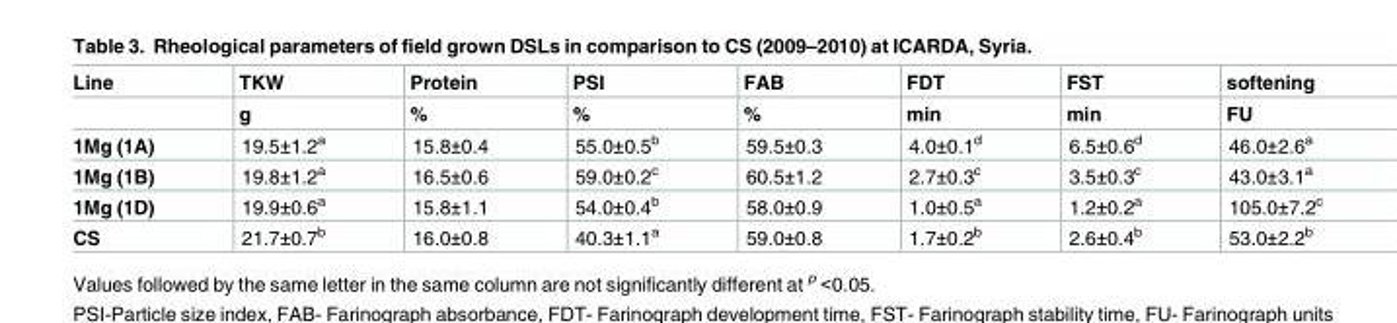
<table><thead><tr><td rowspan="2">Line</td><td rowspan="2">TKW g</td><td rowspan="2">Protein %</td><td rowspan="2">PSI %</td><td rowspan="2">FAB %</td><td rowspan="2">FDT min</td><td rowspan="2">FST min</td><td rowspan="2">softening FU</td></tr><tr></tr></thead><tbody><tr><td>1Mg (1A)</td><td>19.5±1.2<sup>a</sup></td><td>15.8±0.4</td><td>55.0±0.5<sup>b</sup></td><td>59.5±0.3</td><td>4.0±0.1<sup>d</sup></td><td>6.5±0.6<sup>d</sup></td><td>46.0±2.6<sup>a</sup></td></tr><tr><td>1Mg (1B)</td><td>19.8±1.2<sup>a</sup></td><td>16.5±0.6</td><td>59.0±0.2<sup>c</sup></td><td>60.5±1.2</td><td>2.7±0.3<sup>c</sup></td><td>3.5±0.3<sup>c</sup></td><td>43.0±3.1<sup>a</sup></td></tr><tr><td>1Mg (1D)</td><td>19.9±0.6<sup>a</sup></td><td>15.8±1.1</td><td>54.0±0.4<sup>b</sup></td><td>58.0±0.9</td><td>1.0±0.5<sup>a</sup></td><td>1.2±0.2<sup>a</sup></td><td>105.0±7.2<sup>c</sup></td></tr><tr><td>CS</td><td>21.7±0.7<sup>b</sup></td><td>16.0±0.8</td><td>40.3±1.1<sup>a</sup></td><td>59.0±0.8</td><td>1.7±0.2<sup>b</sup></td><td>2.6±0.4<sup>b</sup></td><td>53.0±2.2<sup>b</sup></td></tr></tbody></table>